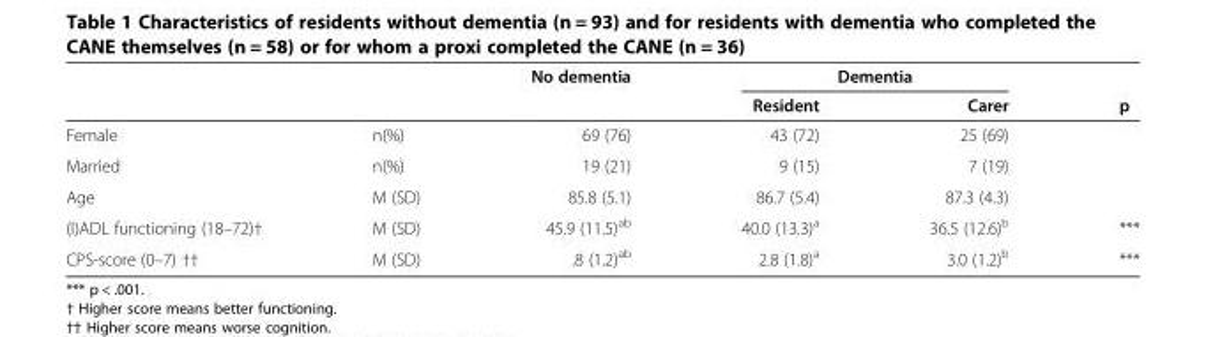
<table><thead><tr><td rowspan="2"></td><td rowspan="2"></td><td rowspan="2">No dementia</td><td colspan="2">Dementia</td><td rowspan="2">p</td></tr><tr><td>Resident</td><td>Carer</td></tr></thead><tbody><tr><td>Female</td><td>n(%)</td><td>69 (76)</td><td>43 (72)</td><td>25 (69)</td><td></td></tr><tr><td>Married</td><td>n(%)</td><td>19 (21)</td><td>9 (15)</td><td>7 (19)</td><td></td></tr><tr><td>Age</td><td>M (SD)</td><td>85.8 (5.1)</td><td>86.7 (5.4)</td><td>87.3 (4.3)</td><td></td></tr><tr><td>(I)ADL functioning (18–72)†</td><td>M (SD)</td><td>45.9 (11.5)<sup>ab</sup></td><td>40.0 (13.3)<sup>a</sup></td><td>36.5 (12.6)<sup>b</sup></td><td>***</td></tr><tr><td>CPS-score (0–7) ††</td><td>M (SD)</td><td>.8 (1.2)<sup>ab</sup></td><td>2.8 (1.8)<sup>a</sup></td><td>3.0 (1.2)<sup>b</sup></td><td>***</td></tr></tbody></table>